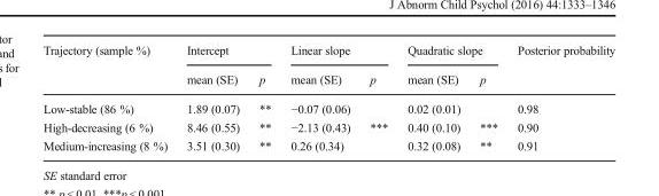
<table><thead><tr><td rowspan="2">Trajectory (sample %)</td><td colspan="2">Intercept</td><td colspan="2">Linear slope</td><td colspan="2">Quadratic slope</td><td rowspan="2">Posterior probability</td></tr><tr><td>mean (SE)</td><td>p</td><td>mean (SE)</td><td>p</td><td>mean (SE)</td><td>p</td></tr></thead><tbody><tr><td>Low-stable (86 %)</td><td>1.89 (0.07)</td><td>**</td><td>−0.07 (0.06)</td><td></td><td>0.02 (0.01)</td><td></td><td>0.98</td></tr><tr><td>High-decreasing (6 %)</td><td>8.46 (0.55)</td><td>**</td><td>−2.13 (0.43)</td><td>***</td><td>0.40 (0.10)</td><td>***</td><td>0.90</td></tr><tr><td>Medium-increasing (8 %)</td><td>3.51 (0.30)</td><td>**</td><td>0.26 (0.34)</td><td></td><td>0.32 (0.08)</td><td>**</td><td>0.91</td></tr></tbody></table>